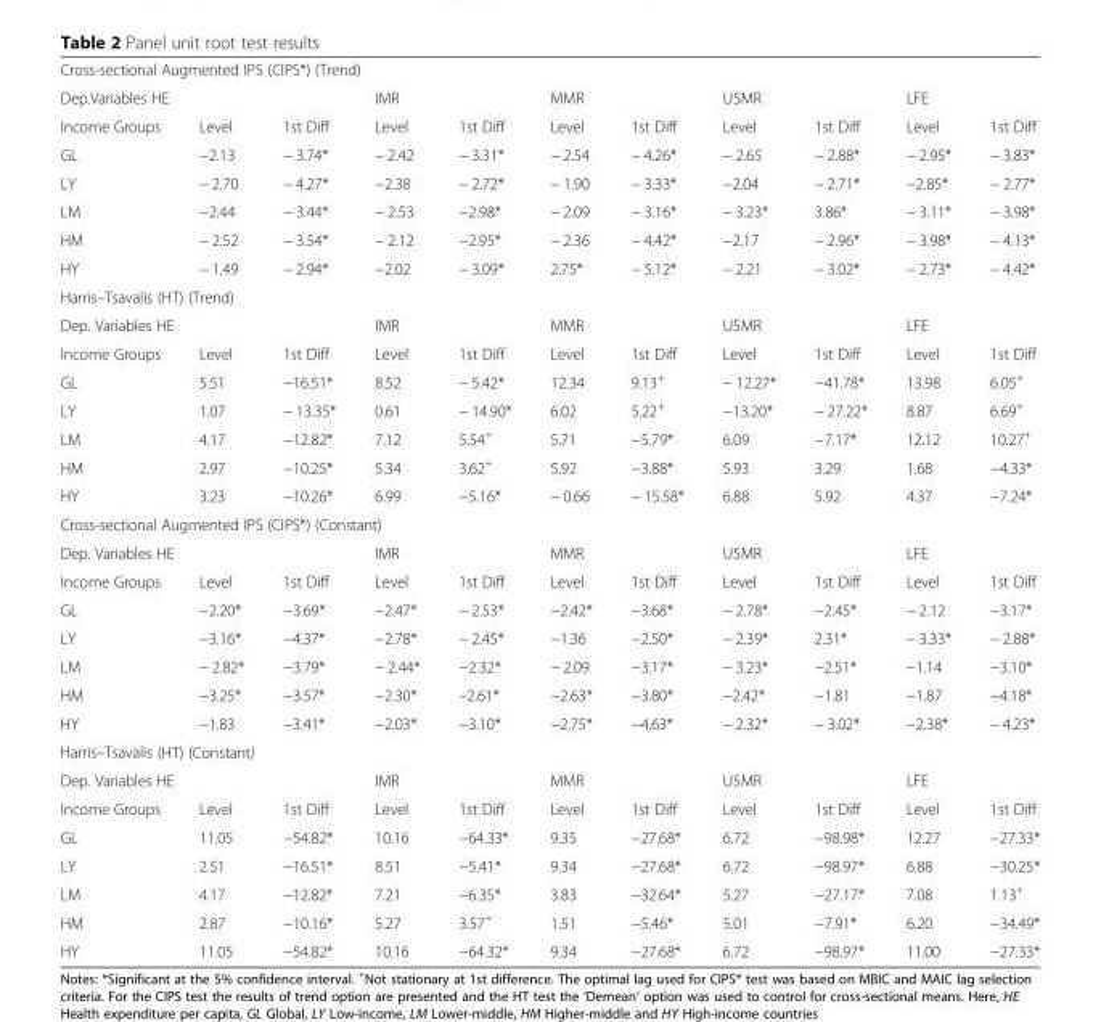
<table><tbody><tr><td colspan="11">Cross-sectional Augmented IPS (CIPS*) (Trend)</td></tr><tr><td colspan="3">Dep.Variables HE</td><td colspan="2">IMR</td><td colspan="2">MMR</td><td colspan="2">U5MR</td><td colspan="2">LFE</td></tr><tr><td>Income Groups</td><td>Level</td><td>1st Diff</td><td>Level</td><td>1st Diff</td><td>Level</td><td>1st Diff</td><td>Level</td><td>1st Diff</td><td>Level</td><td>1st Diff</td></tr><tr><td>GL</td><td>−2.13</td><td>− 3.74*</td><td>− 2.42</td><td>− 3.31*</td><td>− 2.54</td><td>− 4.26*</td><td>− 2.65</td><td>− 2.88*</td><td>− 2.95*</td><td>− 3.83*</td></tr><tr><td>LY</td><td>− 2.70</td><td>− 4.27*</td><td>−2.38</td><td>− 2.72*</td><td>− 1.90</td><td>− 3.33*</td><td>−2.04</td><td>− 2.71*</td><td>−2.85*</td><td>− 2.77*</td></tr><tr><td>LM</td><td>−2.44</td><td>− 3.44*</td><td>− 2.53</td><td>−2.98*</td><td>− 2.09</td><td>− 3.16*</td><td>− 3.23*</td><td>3.86*</td><td>− 3.11*</td><td>− 3.98*</td></tr><tr><td>HM</td><td>− 2.52</td><td>− 3.54*</td><td>− 2.12</td><td>−2.95*</td><td>− 2.36</td><td>− 4.42*</td><td>−2.17</td><td>− 2.96*</td><td>− 3.98*</td><td>− 4.13*</td></tr><tr><td>HY</td><td>− 1.49</td><td>− 2.94*</td><td>−2.02</td><td>− 3.09*</td><td>2.75*</td><td>− 5.12*</td><td>− 2.21</td><td>− 3.02*</td><td>− 2.73*</td><td>− 4.42*</td></tr><tr><td colspan="11">Harris–Tsavalis (HT) (Trend)</td></tr><tr><td colspan="3">Dep. Variables HE</td><td colspan="2">IMR</td><td colspan="2">MMR</td><td colspan="2">U5MR</td><td colspan="2">LFE</td></tr><tr><td>Income Groups</td><td>Level</td><td>1st Diff</td><td>Level</td><td>1st Diff</td><td>Level</td><td>1st Diff</td><td>Level</td><td>1st Diff</td><td>Level</td><td>1st Diff</td></tr><tr><td>GL</td><td>5.51</td><td>−16.51*</td><td>8.52</td><td>− 5.42*</td><td>12.34</td><td>9.13<sup>+</sup></td><td>− 12.27*</td><td>−41.78*</td><td>13.98</td><td>6.05<sup>+</sup></td></tr><tr><td>LY</td><td>1.07</td><td>− 13.35*</td><td>0.61</td><td>− 14.90*</td><td>6.02</td><td>5.22<sup>+</sup></td><td>−13.20*</td><td>− 27.22*</td><td>8.87</td><td>6.69<sup>+</sup></td></tr><tr><td>LM</td><td>4.17</td><td>−12.82*</td><td>7.12</td><td>5.54<sup>+</sup></td><td>5.71</td><td>−5.79*</td><td>6.09</td><td>−7.17*</td><td>12.12</td><td>10.27<sup>+</sup></td></tr><tr><td>HM</td><td>2.97</td><td>−10.25*</td><td>5.34</td><td>3.62<sup>+</sup></td><td>5.92</td><td>−3.88*</td><td>5.93</td><td>3.29</td><td>1.68</td><td>−4.33*</td></tr><tr><td>HY</td><td>3.23</td><td>−10.26*</td><td>6.99</td><td>−5.16*</td><td>− 0.66</td><td>− 15.58*</td><td>6.88</td><td>5.92</td><td>4.37</td><td>−7.24*</td></tr><tr><td colspan="11">Cross-sectional Augmented IPS (CIPS*) (Constant)</td></tr><tr><td colspan="3">Dep. Variables HE</td><td colspan="2">IMR</td><td colspan="2">MMR</td><td colspan="2">U5MR</td><td colspan="2">LFE</td></tr><tr><td>Income Groups</td><td>Level</td><td>1st Diff</td><td>Level</td><td>1st Diff</td><td>Level</td><td>1st Diff</td><td>Level</td><td>1st Diff</td><td>Level</td><td>1st Diff</td></tr><tr><td>GL</td><td>−2.20*</td><td>−3.69*</td><td>−2.47*</td><td>− 2.53*</td><td>−2.42*</td><td>−3.68*</td><td>− 2.78*</td><td>−2.45*</td><td>− 2.12</td><td>−3.17*</td></tr><tr><td>LY</td><td>−3.16*</td><td>−4.37*</td><td>−2.78*</td><td>− 2.45*</td><td>−1.36</td><td>−2.50*</td><td>− 2.39*</td><td>2.31*</td><td>− 3.33*</td><td>− 2.88*</td></tr><tr><td>LM</td><td>− 2.82*</td><td>−3.79*</td><td>− 2.44*</td><td>−2.32*</td><td>− 2.09</td><td>−3.17*</td><td>− 3.23*</td><td>−2.51*</td><td>−1.14</td><td>−3.10*</td></tr><tr><td>HM</td><td>−3.25*</td><td>−3.57*</td><td>−2.30*</td><td>–2.61*</td><td>−2.63*</td><td>−3.80*</td><td>−2.42*</td><td>−1.81</td><td>−1.87</td><td>−4.18*</td></tr><tr><td>HY</td><td>−1.83</td><td>−3.41*</td><td>−2.03*</td><td>−3.10*</td><td>−2.75*</td><td>−4.63*</td><td>− 2.32*</td><td>− 3.02*</td><td>−2.38*</td><td>− 4.23*</td></tr><tr><td colspan="11">Harris–Tsavalis (HT) (Constant)</td></tr><tr><td colspan="3">Dep. Variables HE</td><td colspan="2">IMR</td><td colspan="2">MMR</td><td colspan="2">U5MR</td><td colspan="2">LFE</td></tr><tr><td>Income Groups</td><td>Level</td><td>1st Diff</td><td>Level</td><td>1st Diff</td><td>Level</td><td>1st Diff</td><td>Level</td><td>1st Diff</td><td>Level</td><td>1st Diff</td></tr><tr><td>GL</td><td>11.05</td><td>−54.82*</td><td>10.16</td><td>−64.33*</td><td>9.35</td><td>−27.68*</td><td>6.72</td><td>−98.98*</td><td>12.27</td><td>−27.33*</td></tr><tr><td>LY</td><td>2.51</td><td>−16.51*</td><td>8.51</td><td>−5.41*</td><td>9.34</td><td>−27.68*</td><td>6.72</td><td>−98.97*</td><td>6.88</td><td>−30.25*</td></tr><tr><td>LM</td><td>4.17</td><td>−12.82*</td><td>7.21</td><td>−6.35*</td><td>3.83</td><td>−32.64*</td><td>5.27</td><td>−27.17*</td><td>7.08</td><td>1.13<sup>+</sup></td></tr><tr><td>HM</td><td>2.87</td><td>−10.16*</td><td>5.27</td><td>3.57<sup>+</sup></td><td>1.51</td><td>−5.46*</td><td>5.01</td><td>−7.91*</td><td>6.20</td><td>−34.49*</td></tr><tr><td>HY</td><td>11.05</td><td>−54.82*</td><td>10.16</td><td>−64.32*</td><td>9.34</td><td>−27.68*</td><td>6.72</td><td>−98.97*</td><td>11.00</td><td>−27.33*</td></tr></tbody></table>